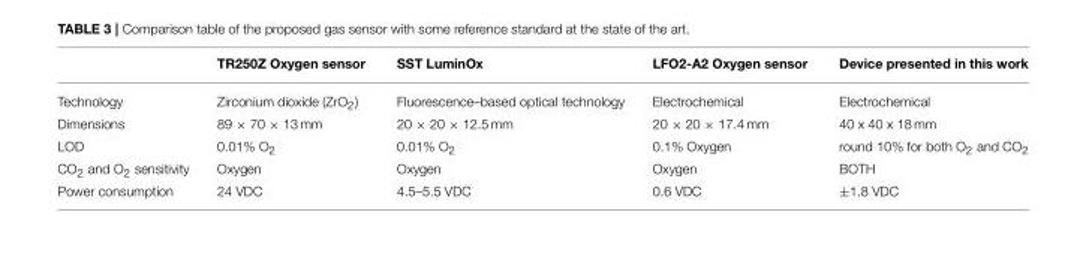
<table><thead><tr><td></td><td>TR250Z Oxygen sensor</td><td>SST LuminOx</td><td>LFO2-A2 Oxygen sensor</td><td>Device presented in this work</td></tr></thead><tbody><tr><td>Technology</td><td>Zirconium dioxide (ZrO<sub>2</sub>)</td><td>Fluorescence–based optical technology</td><td>Electrochemical</td><td>Electrochemical</td></tr><tr><td>Dimensions</td><td>89 × 70 × 13 mm</td><td>20 × 20 × 12.5 mm</td><td>20 × 20 × 17.4 mm</td><td>40 x 40 x 18 mm</td></tr><tr><td>LOD</td><td>0.01% O<sub>2</sub></td><td>0.01% O<sub>2</sub></td><td>0.1% Oxygen</td><td>round 10% for both O<sub>2</sub> and CO<sub>2</sub></td></tr><tr><td>CO<sub>2</sub> and O<sub>2</sub> sensitivity</td><td>Oxygen</td><td>Oxygen</td><td>Oxygen</td><td>BOTH</td></tr><tr><td>Power consumption</td><td>24 VDC</td><td>4.5–5.5 VDC</td><td>0.6 VDC</td><td>±1.8 VDC</td></tr></tbody></table>